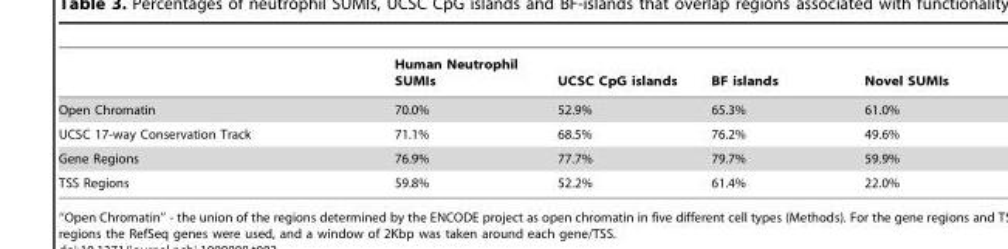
<table><thead><tr><td></td><td>Human Neutrophil SUMIs</td><td>UCSC CpG islands</td><td>BF islands</td><td>Novel SUMIs</td></tr></thead><tbody><tr><td>Open Chromatin</td><td>70.0%</td><td>52.9%</td><td>65.3%</td><td>61.0%</td></tr><tr><td>UCSC 17-way Conservation Track</td><td>71.1%</td><td>68.5%</td><td>76.2%</td><td>49.6%</td></tr><tr><td>Gene Regions</td><td>76.9%</td><td>77.7%</td><td>79.7%</td><td>59.9%</td></tr><tr><td>TSS Regions</td><td>59.8%</td><td>52.2%</td><td>61.4%</td><td>22.0%</td></tr></tbody></table>